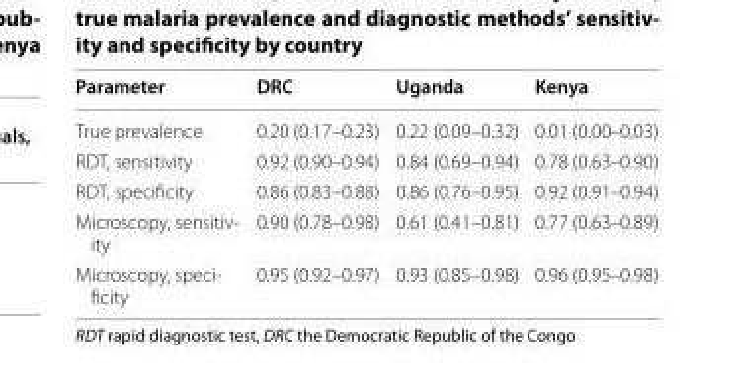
<table><thead><tr><td>Parameter</td><td>DRC</td><td>Uganda</td><td>Kenya</td></tr></thead><tbody><tr><td>True prevalence</td><td>0.20 (0.17–0.23)</td><td>0.22 (0.09–0.32)</td><td>0.01 (0.00–0.03)</td></tr><tr><td>RDT, sensitivity</td><td>0.92 (0.90–0.94)</td><td>0.84 (0.69–0.94)</td><td>0.78 (0.63–0.90)</td></tr><tr><td>RDT, specificity</td><td>0.86 (0.83–0.88)</td><td>0.86 (0.76–0.95)</td><td>0.92 (0.91–0.94)</td></tr><tr><td>Microscopy, sensitiv‑ ity</td><td>0.90 (0.78–0.98)</td><td>0.61 (0.41–0.81)</td><td>0.77 (0.63–0.89)</td></tr><tr><td>Microscopy, speci‑ ficity</td><td>0.95 (0.92–0.97)</td><td>0.93 (0.85–0.98)</td><td>0.96 (0.95–0.98)</td></tr></tbody></table>